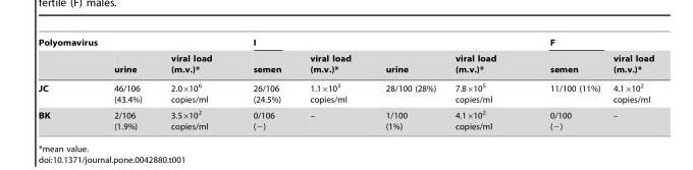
<table><thead><tr><td colspan="3">Polyomavirus</td><td colspan="4">I</td><td colspan="2">F</td></tr><tr><td></td><td>urine</td><td>viral load (m.v.)*</td><td>semen</td><td>viral load (m.v.)*</td><td>urine</td><td>viral load (m.v.)*</td><td>semen</td><td>viral load (m.v.)*</td></tr></thead><tbody><tr><td>JC</td><td>46/106 (43.4%)</td><td>2.0×10<sup>6</sup> copies/ml</td><td>26/106 (24.5%)</td><td>1.1×10<sup>3</sup> copies/ml</td><td>28/100 (28%)</td><td>7.8×10<sup>5</sup> copies/ml</td><td>11/100 (11%)</td><td>4.1×10<sup>2</sup> copies/ml</td></tr><tr><td>BK</td><td>2/106 (1.9%)</td><td>3.5×10<sup>2</sup> copies/ml</td><td>0/106 (−)</td><td>–</td><td>1/100 (1%)</td><td>4.1×10<sup>2</sup> copies/ml</td><td>0/100 (−)</td><td>–</td></tr></tbody></table>